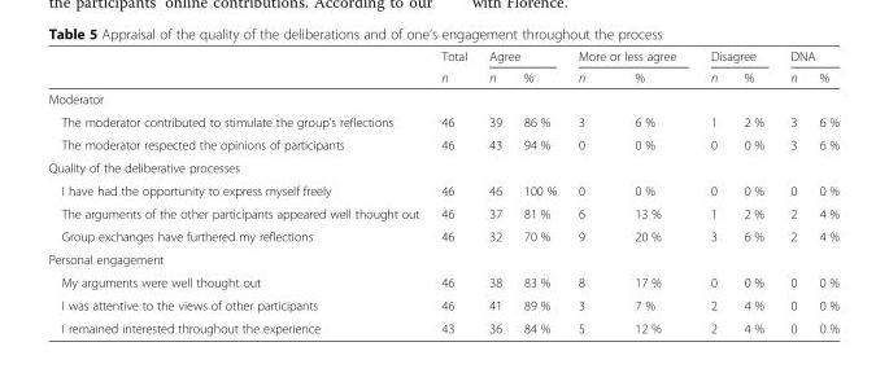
<table><thead><tr><td rowspan="2"></td><td rowspan="2">Total n</td><td colspan="2">Agree</td><td colspan="2">More or less agree</td><td colspan="2">Disagree</td><td colspan="2">DNA</td></tr><tr><td>n</td><td>%</td><td>n</td><td>%</td><td>n</td><td>%</td><td>n</td><td>%</td></tr></thead><tbody><tr><td colspan="10">Moderator</td></tr><tr><td>The moderator contributed to stimulate the group’s reflections</td><td>46</td><td>39</td><td>86 %</td><td>3</td><td>6 %</td><td>1</td><td>2 %</td><td>3</td><td>6 %</td></tr><tr><td>The moderator respected the opinions of participants</td><td>46</td><td>43</td><td>94 %</td><td>0</td><td>0 %</td><td>0</td><td>0 %</td><td>3</td><td>6 %</td></tr><tr><td colspan="10">Quality of the deliberative processes</td></tr><tr><td>I have had the opportunity to express myself freely</td><td>46</td><td>46</td><td>100 %</td><td>0</td><td>0 %</td><td>0</td><td>0 %</td><td>0</td><td>0 %</td></tr><tr><td>The arguments of the other participants appeared well thought out</td><td>46</td><td>37</td><td>81 %</td><td>6</td><td>13 %</td><td>1</td><td>2 %</td><td>2</td><td>4 %</td></tr><tr><td>Group exchanges have furthered my reflections</td><td>46</td><td>32</td><td>70 %</td><td>9</td><td>20 %</td><td>3</td><td>6 %</td><td>2</td><td>4 %</td></tr><tr><td colspan="10">Personal engagement</td></tr><tr><td>My arguments were well thought out</td><td>46</td><td>38</td><td>83 %</td><td>8</td><td>17 %</td><td>0</td><td>0 %</td><td>0</td><td>0 %</td></tr><tr><td>I was attentive to the views of other participants</td><td>46</td><td>41</td><td>89 %</td><td>3</td><td>7 %</td><td>2</td><td>4 %</td><td>0</td><td>0 %</td></tr><tr><td>I remained interested throughout the experience</td><td>43</td><td>36</td><td>84 %</td><td>5</td><td>12 %</td><td>2</td><td>4 %</td><td>0</td><td>0 %</td></tr></tbody></table>